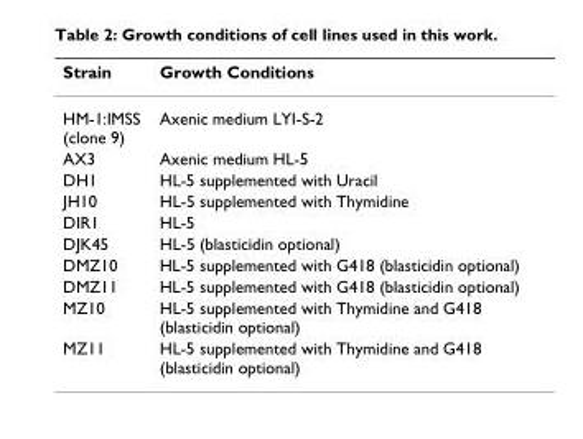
<table><thead><tr><td>Strain</td><td>Growth Conditions</td></tr></thead><tbody><tr><td>HM-1:IMSS (clone 9)</td><td>Axenic medium LYI-S-2</td></tr><tr><td>AX3</td><td>Axenic medium HL-5</td></tr><tr><td>DH1</td><td>HL-5 supplemented with Uracil</td></tr><tr><td>JH10</td><td>HL-5 supplemented with Thymidine</td></tr><tr><td>DIR1</td><td>HL-5</td></tr><tr><td>DJK45</td><td>HL-5 (blasticidin optional)</td></tr><tr><td>DMZ10</td><td>HL-5 supplemented with G418 (blasticidin optional)</td></tr><tr><td>DMZ11</td><td>HL-5 supplemented with G418 (blasticidin optional)</td></tr><tr><td>MZ10</td><td>HL-5 supplemented with Thymidine and G418 (blasticidin optional)</td></tr><tr><td>MZ11</td><td>HL-5 supplemented with Thymidine and G418 (blasticidin optional)</td></tr></tbody></table>